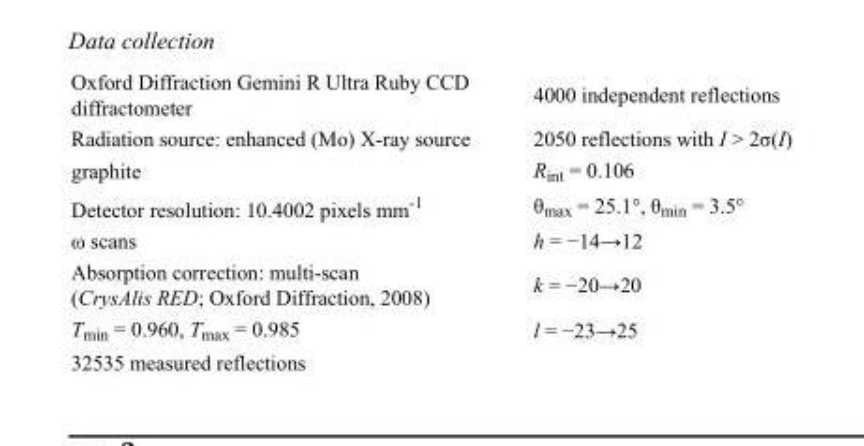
<table><tbody><tr><td>Oxford Diffraction Gemini R Ultra Ruby CCD diffractometer</td><td>4000 independent reflections</td></tr><tr><td>Radiation source: enhanced (Mo) X-ray source</td><td>2050 reflections with I &gt; 2σ(I)</td></tr><tr><td>graphite</td><td>R<sub>int</sub> = 0.106</td></tr><tr><td>Detector resolution: 10.4002 pixels mm<sup>-1</sup></td><td>θ<sub>max</sub> = 25.1°, θ<sub>min</sub> = 3.5°</td></tr><tr><td>ω scans</td><td>h = −14→12</td></tr><tr><td>Absorption correction: multi-scan (CrysAlis RED; Oxford Diffraction, 2008)</td><td>k = −20→20</td></tr><tr><td>T<sub>min</sub> = 0.960, T<sub>max</sub> = 0.985</td><td>l = −23→25</td></tr><tr><td>32535 measured reflections</td><td></td></tr></tbody></table>